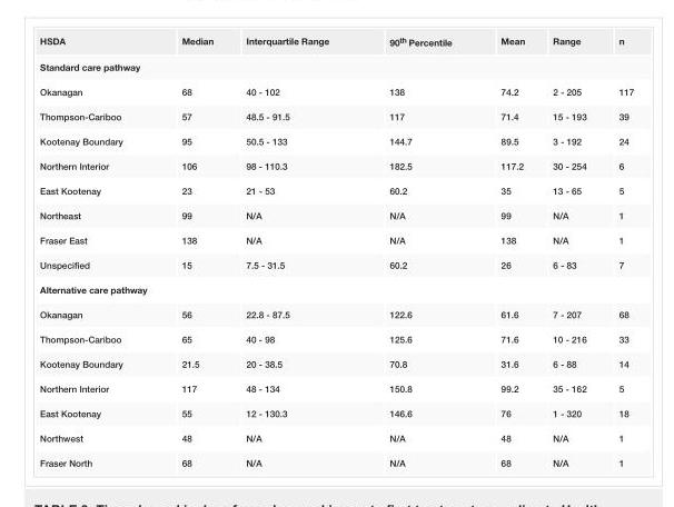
<table><tbody><tr><td>HSDA</td><td>Median</td><td>Interquartile Range</td><td>90<sup>th</sup> Percentile</td><td>Mean</td><td>Range</td><td>n</td></tr><tr><td colspan="7">Standard care pathway</td></tr><tr><td>Okanagan</td><td>68</td><td>40 - 102</td><td>138</td><td>74.2</td><td>2 - 205</td><td>117</td></tr><tr><td>Thompson-Cariboo</td><td>57</td><td>48.5 - 91.5</td><td>117</td><td>71.4</td><td>15 - 193</td><td>39</td></tr><tr><td>Kootenay Boundary</td><td>95</td><td>50.5 - 133</td><td>144.7</td><td>89.5</td><td>3 - 192</td><td>24</td></tr><tr><td>Northern Interior</td><td>106</td><td>98 - 110.3</td><td>182.5</td><td>117.2</td><td>30 - 254</td><td>6</td></tr><tr><td>East Kootenay</td><td>23</td><td>21 - 53</td><td>60.2</td><td>35</td><td>13 - 65</td><td>5</td></tr><tr><td>Northeast</td><td>99</td><td>N/A</td><td>N/A</td><td>99</td><td>N/A</td><td>1</td></tr><tr><td>Fraser East</td><td>138</td><td>N/A</td><td>N/A</td><td>138</td><td>N/A</td><td>1</td></tr><tr><td>Unspecified</td><td>15</td><td>7.5 - 31.5</td><td>60.2</td><td>26</td><td>6 - 83</td><td>7</td></tr><tr><td colspan="7">Alternative care pathway</td></tr><tr><td>Okanagan</td><td>56</td><td>22.8 - 87.5</td><td>122.6</td><td>61.6</td><td>7 - 207</td><td>68</td></tr><tr><td>Thompson-Cariboo</td><td>65</td><td>40 - 98</td><td>125.6</td><td>71.6</td><td>10 - 216</td><td>33</td></tr><tr><td>Kootenay Boundary</td><td>21.5</td><td>20 - 38.5</td><td>70.8</td><td>31.6</td><td>6 - 88</td><td>14</td></tr><tr><td>Northern Interior</td><td>117</td><td>48 - 134</td><td>150.8</td><td>99.2</td><td>35 - 162</td><td>5</td></tr><tr><td>East Kootenay</td><td>55</td><td>12 - 130.3</td><td>146.6</td><td>76</td><td>1 - 320</td><td>18</td></tr><tr><td>Northwest</td><td>48</td><td>N/A</td><td>N/A</td><td>48</td><td>N/A</td><td>1</td></tr><tr><td>Fraser North</td><td>68</td><td>N/A</td><td>N/A</td><td>68</td><td>N/A</td><td>1</td></tr></tbody></table>